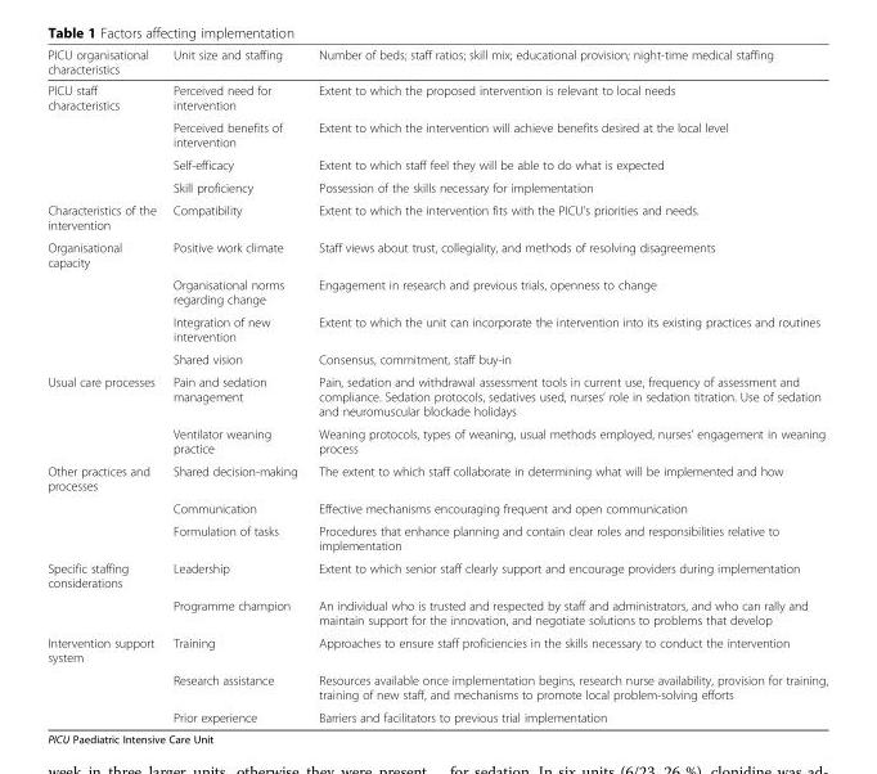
<table><thead><tr><td>PICU organisational characteristics</td><td>Unit size and staffing</td><td>Number of beds; staff ratios; skill mix; educational provision; night-time medical staffing</td></tr></thead><tbody><tr><td rowspan="4">PICU staff characteristics</td><td>Perceived need for intervention</td><td>Extent to which the proposed intervention is relevant to local needs</td></tr><tr><td>Perceived benefits of intervention</td><td>Extent to which the intervention will achieve benefits desired at the local level</td></tr><tr><td>Self-efficacy</td><td>Extent to which staff feel they will be able to do what is expected</td></tr><tr><td>Skill proficiency</td><td>Possession of the skills necessary for implementation</td></tr><tr><td>Characteristics of the intervention</td><td>Compatibility</td><td>Extent to which the intervention fits with the PICU’s priorities and needs.</td></tr><tr><td rowspan="4">Organisational capacity</td><td>Positive work climate</td><td>Staff views about trust, collegiality, and methods of resolving disagreements</td></tr><tr><td>Organisational norms regarding change</td><td>Engagement in research and previous trials, openness to change</td></tr><tr><td>Integration of new intervention</td><td>Extent to which the unit can incorporate the intervention into its existing practices and routines</td></tr><tr><td>Shared vision</td><td>Consensus, commitment, staff buy-in</td></tr><tr><td rowspan="2">Usual care processes</td><td>Pain and sedation management</td><td>Pain, sedation and withdrawal assessment tools in current use, frequency of assessment and compliance. Sedation protocols, sedatives used, nurses’ role in sedation titration. Use of sedation and neuromuscular blockade holidays</td></tr><tr><td>Ventilator weaning practice</td><td>Weaning protocols, types of weaning, usual methods employed, nurses’ engagement in weaning process</td></tr><tr><td rowspan="3">Other practices and processes</td><td>Shared decision-making</td><td>The extent to which staff collaborate in determining what will be implemented and how</td></tr><tr><td>Communication</td><td>Effective mechanisms encouraging frequent and open communication</td></tr><tr><td>Formulation of tasks</td><td>Procedures that enhance planning and contain clear roles and responsibilities relative to implementation</td></tr><tr><td rowspan="2">Specific staffing considerations</td><td>Leadership</td><td>Extent to which senior staff clearly support and encourage providers during implementation</td></tr><tr><td>Programme champion</td><td>An individual who is trusted and respected by staff and administrators, and who can rally and maintain support for the innovation, and negotiate solutions to problems that develop</td></tr><tr><td rowspan="3">Intervention support system</td><td>Training</td><td>Approaches to ensure staff proficiencies in the skills necessary to conduct the intervention</td></tr><tr><td>Research assistance</td><td>Resources available once implementation begins, research nurse availability, provision for training, training of new staff, and mechanisms to promote local problem-solving efforts</td></tr><tr><td>Prior experience</td><td>Barriers and facilitators to previous trial implementation</td></tr></tbody></table>